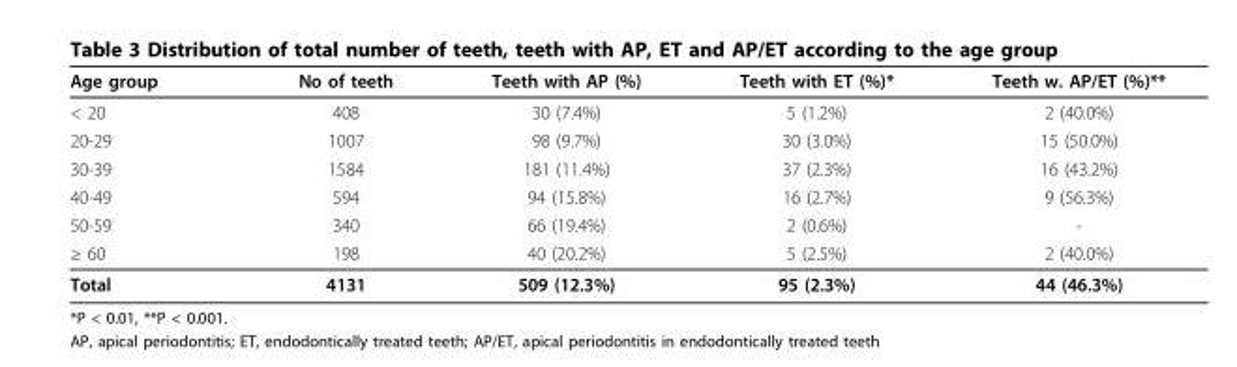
<table><thead><tr><td>Age group</td><td>No of teeth</td><td>Teeth with AP (%)</td><td>Teeth with ET (%)*</td><td>Teeth w. AP/ET (%)**</td></tr></thead><tbody><tr><td>&lt; 20</td><td>408</td><td>30 (7.4%)</td><td>5 (1.2%)</td><td>2 (40.0%)</td></tr><tr><td>20-29</td><td>1007</td><td>98 (9.7%)</td><td>30 (3.0%)</td><td>15 (50.0%)</td></tr><tr><td>30-39</td><td>1584</td><td>181 (11.4%)</td><td>37 (2.3%)</td><td>16 (43.2%)</td></tr><tr><td>40-49</td><td>594</td><td>94 (15.8%)</td><td>16 (2.7%)</td><td>9 (56.3%)</td></tr><tr><td>50-59</td><td>340</td><td>66 (19.4%)</td><td>2 (0.6%)</td><td>-</td></tr><tr><td>≥ 60</td><td>198</td><td>40 (20.2%)</td><td>5 (2.5%)</td><td>2 (40.0%)</td></tr><tr><td>Total</td><td>4131</td><td>509 (12.3%)</td><td>95 (2.3%)</td><td>44 (46.3%)</td></tr></tbody></table>